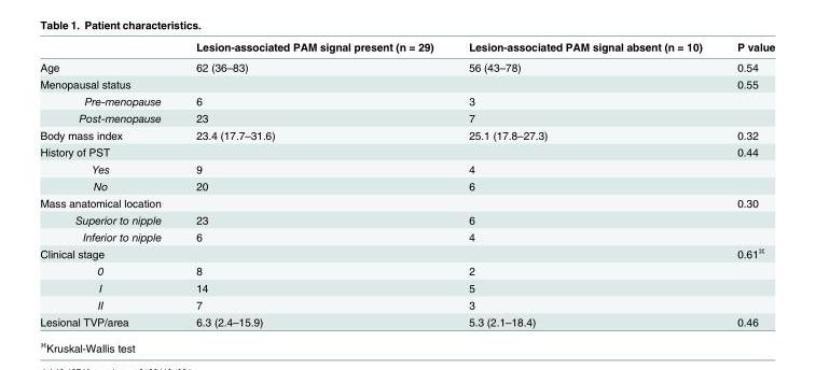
<table><thead><tr><td></td><td>Lesion-associated PAM signal present (n = 29)</td><td>Lesion-associated PAM signal absent (n = 10)</td><td>P value</td></tr></thead><tbody><tr><td>Age</td><td>62 (36–83)</td><td>56 (43–78)</td><td>0.54</td></tr><tr><td>Menopausal status</td><td></td><td></td><td>0.55</td></tr><tr><td>Pre-menopause</td><td>6</td><td>3</td><td></td></tr><tr><td>Post-menopause</td><td>23</td><td>7</td><td></td></tr><tr><td>Body mass index</td><td>23.4 (17.7–31.6)</td><td>25.1 (17.8–27.3)</td><td>0.32</td></tr><tr><td>History of PST</td><td></td><td></td><td>0.44</td></tr><tr><td>Yes</td><td>9</td><td>4</td><td></td></tr><tr><td>No</td><td>20</td><td>6</td><td></td></tr><tr><td>Mass anatomical location</td><td></td><td></td><td>0.30</td></tr><tr><td>Superior to nipple</td><td>23</td><td>6</td><td></td></tr><tr><td>Inferior to nipple</td><td>6</td><td>4</td><td></td></tr><tr><td>Clinical stage</td><td></td><td></td><td>0.61<sup>⌘</sup></td></tr><tr><td>0</td><td>8</td><td>2</td><td></td></tr><tr><td>I</td><td>14</td><td>5</td><td></td></tr><tr><td>II</td><td>7</td><td>3</td><td></td></tr><tr><td>Lesional TVP/area</td><td>6.3 (2.4–15.9)</td><td>5.3 (2.1–18.4)</td><td>0.46</td></tr></tbody></table>